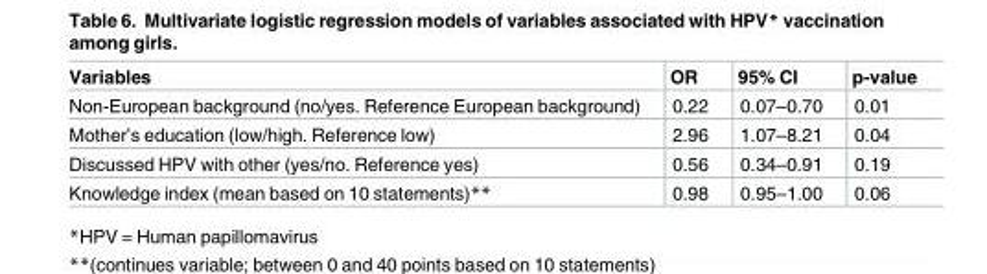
<table><thead><tr><td>Variables</td><td>OR</td><td>95% CI</td><td>p-value</td></tr></thead><tbody><tr><td>Non-European background (no/yes. Reference European background)</td><td>0.22</td><td>0.07–0.70</td><td>0.01</td></tr><tr><td>Mother’s education (low/high. Reference low)</td><td>2.96</td><td>1.07–8.21</td><td>0.04</td></tr><tr><td>Discussed HPV with other (yes/no. Reference yes)</td><td>0.56</td><td>0.34–0.91</td><td>0.19</td></tr><tr><td>Knowledge index (mean based on 10 statements)**</td><td>0.98</td><td>0.95–1.00</td><td>0.06</td></tr></tbody></table>